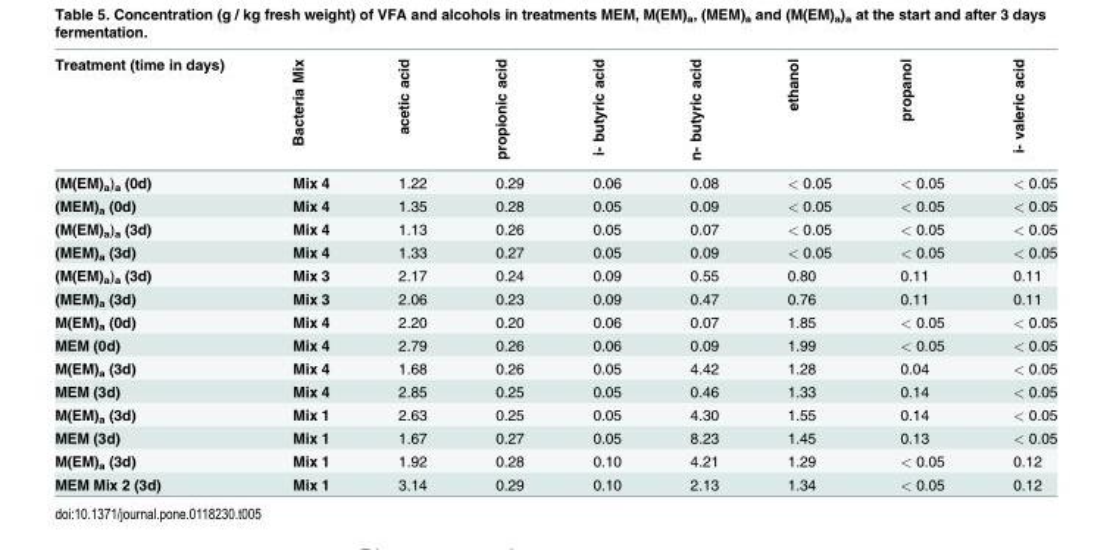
<table><thead><tr><td>Treatment (time in days)</td><td>Bacteria Mix</td><td>acetic acid</td><td>propionic acid</td><td>i- butyric acid</td><td>n- butyric acid</td><td>ethanol</td><td>propanol</td><td>i- valeric acid</td></tr></thead><tbody><tr><td>(M(EM)<sub>a</sub>)<sub>a</sub> (0d)</td><td>Mix 4</td><td>1.22</td><td>0.29</td><td>0.06</td><td>0.08</td><td>&lt; 0.05</td><td>&lt; 0.05</td><td>&lt; 0.05</td></tr><tr><td>(MEM)<sub>a</sub> (0d)</td><td>Mix 4</td><td>1.35</td><td>0.28</td><td>0.05</td><td>0.09</td><td>&lt; 0.05</td><td>&lt; 0.05</td><td>&lt; 0.05</td></tr><tr><td>(M(EM)<sub>a</sub>)<sub>a</sub> (3d)</td><td>Mix 4</td><td>1.13</td><td>0.26</td><td>0.05</td><td>0.07</td><td>&lt; 0.05</td><td>&lt; 0.05</td><td>&lt; 0.05</td></tr><tr><td>(MEM)<sub>a</sub> (3d)</td><td>Mix 4</td><td>1.33</td><td>0.27</td><td>0.05</td><td>0.09</td><td>&lt; 0.05</td><td>&lt; 0.05</td><td>&lt; 0.05</td></tr><tr><td>(M(EM)<sub>a</sub>)<sub>a</sub> (3d)</td><td>Mix 3</td><td>2.17</td><td>0.24</td><td>0.09</td><td>0.55</td><td>0.80</td><td>0.11</td><td>0.11</td></tr><tr><td>(MEM)<sub>a</sub> (3d)</td><td>Mix 3</td><td>2.06</td><td>0.23</td><td>0.09</td><td>0.47</td><td>0.76</td><td>0.11</td><td>0.11</td></tr><tr><td>M(EM)<sub>a</sub> (0d)</td><td>Mix 4</td><td>2.20</td><td>0.20</td><td>0.06</td><td>0.07</td><td>1.85</td><td>&lt; 0.05</td><td>&lt; 0.05</td></tr><tr><td>MEM (0d)</td><td>Mix 4</td><td>2.79</td><td>0.26</td><td>0.06</td><td>0.09</td><td>1.99</td><td>&lt; 0.05</td><td>&lt; 0.05</td></tr><tr><td>M(EM)<sub>a</sub> (3d)</td><td>Mix 4</td><td>1.68</td><td>0.26</td><td>0.05</td><td>4.42</td><td>1.28</td><td>0.04</td><td>&lt; 0.05</td></tr><tr><td>MEM (3d)</td><td>Mix 4</td><td>2.85</td><td>0.25</td><td>0.05</td><td>0.46</td><td>1.33</td><td>0.14</td><td>&lt; 0.05</td></tr><tr><td>M(EM)<sub>a</sub> (3d)</td><td>Mix 1</td><td>2.63</td><td>0.25</td><td>0.05</td><td>4.30</td><td>1.55</td><td>0.14</td><td>&lt; 0.05</td></tr><tr><td>MEM (3d)</td><td>Mix 1</td><td>1.67</td><td>0.27</td><td>0.05</td><td>8.23</td><td>1.45</td><td>0.13</td><td>&lt; 0.05</td></tr><tr><td>M(EM)<sub>a</sub> (3d)</td><td>Mix 1</td><td>1.92</td><td>0.28</td><td>0.10</td><td>4.21</td><td>1.29</td><td>&lt; 0.05</td><td>0.12</td></tr><tr><td>MEM Mix 2 (3d)</td><td>Mix 1</td><td>3.14</td><td>0.29</td><td>0.10</td><td>2.13</td><td>1.34</td><td>&lt; 0.05</td><td>0.12</td></tr></tbody></table>